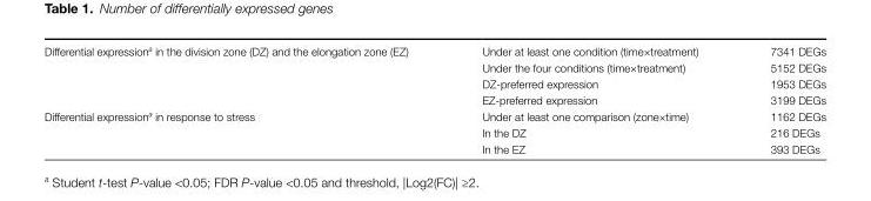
<table><tbody><tr><td rowspan="4">Differential expression<sup>a</sup> in the division zone (DZ) and the elongation zone (EZ)</td><td>Under at least one condition (time×treatment)</td><td>7341 DEGs</td></tr><tr><td>Under the four conditions (time×treatment)</td><td>5152 DEGs</td></tr><tr><td>DZ-preferred expression</td><td>1953 DEGs</td></tr><tr><td>EZ-preferred expression</td><td>3199 DEGs</td></tr><tr><td rowspan="2">Differential expression<sup>a</sup> in response to stress</td><td>Under at least one comparison (zone×time)</td><td>1162 DEGs</td></tr><tr><td>In the DZ In the EZ</td><td>216 DEGs 393 DEGs</td></tr></tbody></table>